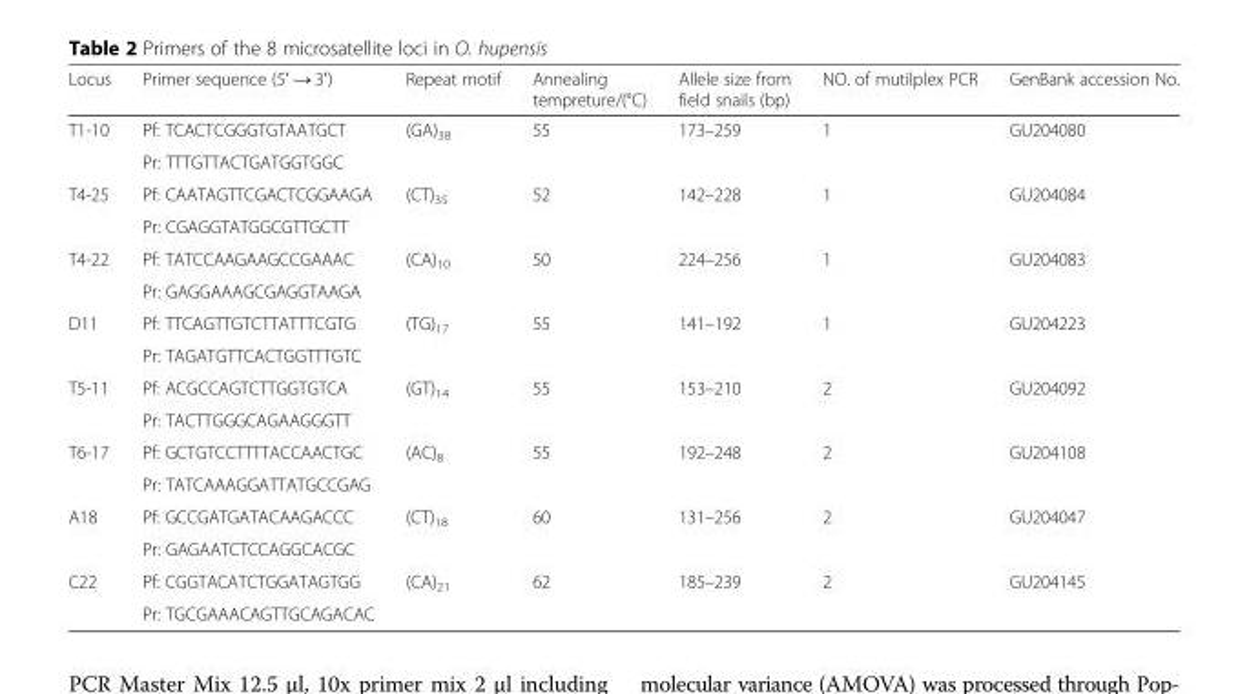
<table><thead><tr><td>Locus</td><td>Primer sequence (5′ → 3′)</td><td>Repeat motif</td><td>Annealing tempreture/(°C)</td><td>Allele size from field snails (bp)</td><td>NO. of mutilplex PCR</td><td>GenBank accession No.</td></tr></thead><tbody><tr><td rowspan="2">T1-10</td><td>Pf: TCACTCGGGTGTAATGCT</td><td rowspan="2">(GA)<sub>38</sub></td><td rowspan="2">55</td><td rowspan="2">173–259</td><td rowspan="2">1</td><td rowspan="2">GU204080</td></tr><tr><td>Pr: TTTGTTACTGATGGTGGC</td></tr><tr><td rowspan="2">T4-25</td><td>Pf: CAATAGTTCGACTCGGAAGA</td><td rowspan="2">(CT)<sub>35</sub></td><td rowspan="2">52</td><td rowspan="2">142–228</td><td rowspan="2">1</td><td rowspan="2">GU204084</td></tr><tr><td>Pr: CGAGGTATGGCGTTGCTT</td></tr><tr><td rowspan="2">T4-22</td><td>Pf: TATCCAAGAAGCCGAAAC</td><td rowspan="2">(CA)<sub>10</sub></td><td rowspan="2">50</td><td rowspan="2">224–256</td><td rowspan="2">1</td><td rowspan="2">GU204083</td></tr><tr><td>Pr: GAGGAAAGCGAGGTAAGA</td></tr><tr><td rowspan="2">D11</td><td>Pf: TTCAGTTGTCTTATTTCGTG</td><td rowspan="2">(TG)<sub>17</sub></td><td rowspan="2">55</td><td rowspan="2">141–192</td><td rowspan="2">1</td><td rowspan="2">GU204223</td></tr><tr><td>Pr: TAGATGTTCACTGGTTTGTC</td></tr><tr><td rowspan="2">T5-11</td><td>Pf: ACGCCAGTCTTGGTGTCA</td><td rowspan="2">(GT)<sub>14</sub></td><td rowspan="2">55</td><td rowspan="2">153–210</td><td rowspan="2">2</td><td rowspan="2">GU204092</td></tr><tr><td>Pr: TACTTGGGCAGAAGGGTT</td></tr><tr><td rowspan="2">T6-17</td><td>Pf: GCTGTCCTTTTACCAACTGC</td><td rowspan="2">(AC)<sub>8</sub></td><td rowspan="2">55</td><td rowspan="2">192–248</td><td rowspan="2">2</td><td rowspan="2">GU204108</td></tr><tr><td>Pr: TATCAAAGGATTATGCCGAG</td></tr><tr><td rowspan="2">A18</td><td>Pf: GCCGATGATACAAGACCC</td><td rowspan="2">(CT)<sub>18</sub></td><td rowspan="2">60</td><td rowspan="2">131–256</td><td rowspan="2">2</td><td rowspan="2">GU204047</td></tr><tr><td>Pr: GAGAATCTCCAGGCACGC</td></tr><tr><td rowspan="2">C22</td><td>Pf: CGGTACATCTGGATAGTGG</td><td rowspan="2">(CA)<sub>21</sub></td><td rowspan="2">62</td><td rowspan="2">185–239</td><td rowspan="2">2</td><td rowspan="2">GU204145</td></tr><tr><td>Pr: TGCGAAACAGTTGCAGACAC</td></tr></tbody></table>